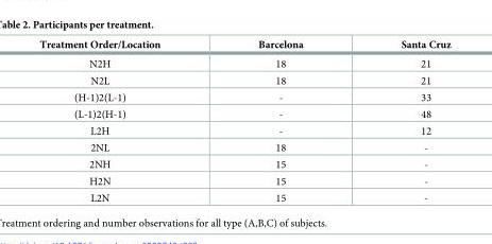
<table><thead><tr><td>Treatment Order/Location</td><td>Barcelona</td><td>Santa Cruz</td></tr></thead><tbody><tr><td>N2H</td><td>18</td><td>21</td></tr><tr><td>N2L</td><td>18</td><td>21</td></tr><tr><td>(H-1)2(L-1)</td><td>-</td><td>33</td></tr><tr><td>(L-1)2(H-1)</td><td>-</td><td>48</td></tr><tr><td>L2H</td><td>-</td><td>12</td></tr><tr><td>2NL</td><td>18</td><td>-</td></tr><tr><td>2NH</td><td>15</td><td>-</td></tr><tr><td>H2N</td><td>15</td><td>-</td></tr><tr><td>L2N</td><td>15</td><td>-</td></tr></tbody></table>